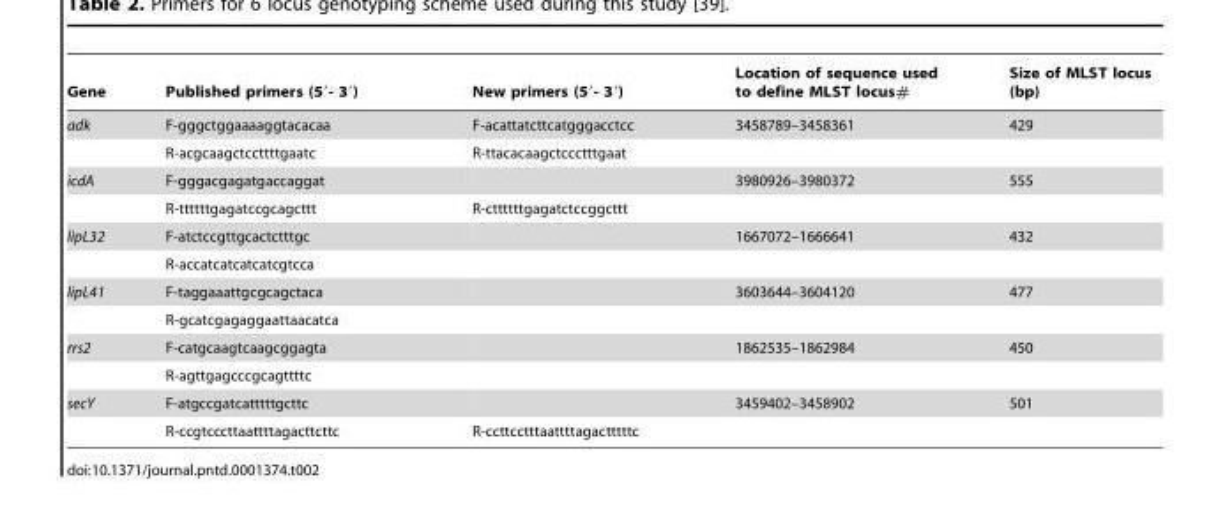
<table><thead><tr><td>Gene</td><td>Published primers (5′- 3′)</td><td>New primers (5′- 3′)</td><td>Location of sequence used to define MLST locus#</td><td>Size of MLST locus (bp)</td></tr></thead><tbody><tr><td rowspan="2">adk</td><td>F-gggctggaaaaggtacacaa</td><td>F-acattatcttcatgggacctcc</td><td>3458789–3458361</td><td>429</td></tr><tr><td>R-acgcaagctccttttgaatc</td><td>R-ttacacaagctccctttgaat</td><td></td><td></td></tr><tr><td rowspan="2">icdA</td><td>F-gggacgagatgaccaggat</td><td></td><td>3980926–3980372</td><td>555</td></tr><tr><td>R-ttttttgagatccgcagcttt</td><td>R-cttttttgagatctccggcttt</td><td></td><td></td></tr><tr><td rowspan="2">lipL32</td><td>F-atctccgttgcactctttgc</td><td></td><td>1667072–1666641</td><td>432</td></tr><tr><td>R-accatcatcatcatcgtcca</td><td></td><td></td><td></td></tr><tr><td rowspan="2">lipL41</td><td>F-taggaaattgcgcagctaca</td><td></td><td>3603644–3604120</td><td>477</td></tr><tr><td>R-gcatcgagaggaattaacatca</td><td></td><td></td><td></td></tr><tr><td rowspan="2">rrs2</td><td>F-catgcaagtcaagcggagta</td><td></td><td>1862535–1862984</td><td>450</td></tr><tr><td>R-agttgagcccgcagttttc</td><td></td><td></td><td></td></tr><tr><td rowspan="2">secY</td><td>F-atgccgatcatttttgcttc</td><td></td><td>3459402–3458902</td><td>501</td></tr><tr><td>R-ccgtcccttaattttagacttcttc</td><td>R-ccttcctttaattttagactttttc</td><td></td><td></td></tr></tbody></table>